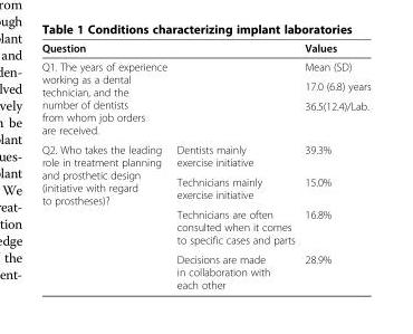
<table><thead><tr><td>Question</td><td></td><td>Values</td></tr></thead><tbody><tr><td rowspan="3">Q1. The years of experience working as a dental technician, and the number of dentists from whom job orders are received.</td><td rowspan="3"></td><td>Mean (SD)</td></tr><tr><td>17.0 (6.8) years</td></tr><tr><td>36.5(12.4)/Lab.</td></tr><tr><td rowspan="4">Q2. Who takes the leading role in treatment planning and prosthetic design (initiative with regard to prostheses)?</td><td>Dentists mainly exercise initiative</td><td>39.3%</td></tr><tr><td>Technicians mainly exercise initiative</td><td>15.0%</td></tr><tr><td>Technicians are often consulted when it comes to specific cases and parts</td><td>16.8%</td></tr><tr><td>Decisions are made in collaboration with each other</td><td>28.9%</td></tr></tbody></table>